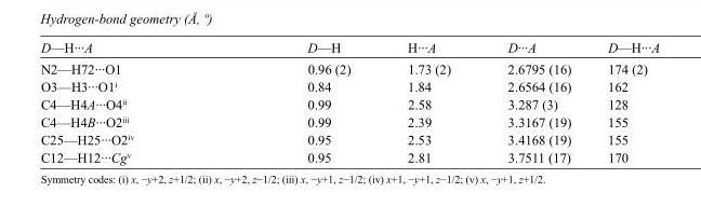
<table><tbody><tr><td>D—H···A</td><td>D—H</td><td>H···A</td><td>D···A</td><td>D—H···A</td></tr><tr><td>N2—H72···O1</td><td>0.96 (2)</td><td>1.73 (2)</td><td>2.6795 (16)</td><td>174 (2)</td></tr><tr><td>O3—H3···O1<sup>i</sup></td><td>0.84</td><td>1.84</td><td>2.6564 (16)</td><td>162</td></tr><tr><td>C4—H4A···O4<sup>ii</sup></td><td>0.99</td><td>2.58</td><td>3.287 (3)</td><td>128</td></tr><tr><td>C4—H4B···O2<sup>iii</sup></td><td>0.99</td><td>2.39</td><td>3.3167 (19)</td><td>155</td></tr><tr><td>C25—H25···O2<sup>iv</sup></td><td>0.95</td><td>2.53</td><td>3.4168 (19)</td><td>155</td></tr><tr><td>C12—H12···Cg<sup>v</sup></td><td>0.95</td><td>2.81</td><td>3.7511 (17)</td><td>170</td></tr></tbody></table>